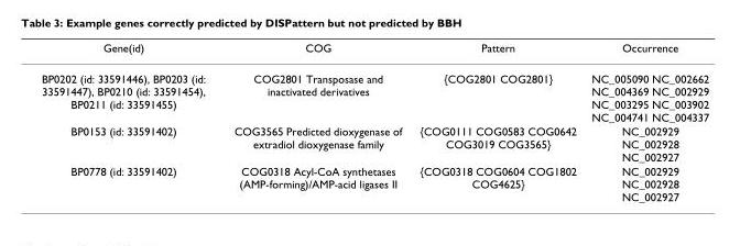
<table><thead><tr><td>Gene(id)</td><td>COG</td><td>Pattern</td><td>Occurrence</td></tr></thead><tbody><tr><td>BP0202 (id: 33591446), BP0203 (id: 33591447), BP0210 (id: 33591454), BP0211 (id: 33591455)</td><td>COG2801 Transposase and inactivated derivatives</td><td>{COG2801 COG2801}</td><td>NC_005090 NC_002662 NC_004369 NC_002929 NC_003295 NC_003902 NC_004741 NC_004337</td></tr><tr><td>BP0153 (id: 33591402)</td><td>COG3565 Predicted dioxygenase of extradiol dioxygenase family</td><td>{COG0111 COG0583 COG0642 COG3019 COG3565}</td><td>NC_002929 NC_002928 NC_002927</td></tr><tr><td>BP0778 (id: 33591402)</td><td>COG0318 Acyl-CoA synthetases (AMP-forming)/AMP-acid ligases II</td><td>{COG0318 COG0604 COG1802 COG4625}</td><td>NC_002929 NC_002928 NC_002927</td></tr></tbody></table>